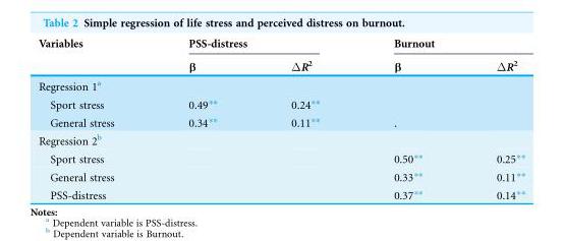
<table><thead><tr><td rowspan="2">Variables</td><td colspan="2">PSS-distress</td><td colspan="2">Burnout</td></tr><tr><td>β</td><td>ΔR<sup>2</sup></td><td>β</td><td>ΔR<sup>2</sup></td></tr></thead><tbody><tr><td colspan="5">Regression 1<sup>a</sup></td></tr><tr><td>Sport stress</td><td>0.49**</td><td>0.24**</td><td></td><td></td></tr><tr><td>General stress</td><td>0.34**</td><td>0.11**</td><td>.</td><td></td></tr><tr><td colspan="5">Regression 2<sup>b</sup></td></tr><tr><td>Sport stress</td><td></td><td></td><td>0.50**</td><td>0.25**</td></tr><tr><td>General stress</td><td></td><td></td><td>0.33**</td><td>0.11**</td></tr><tr><td>PSS-distress</td><td></td><td></td><td>0.37**</td><td>0.14**</td></tr></tbody></table>